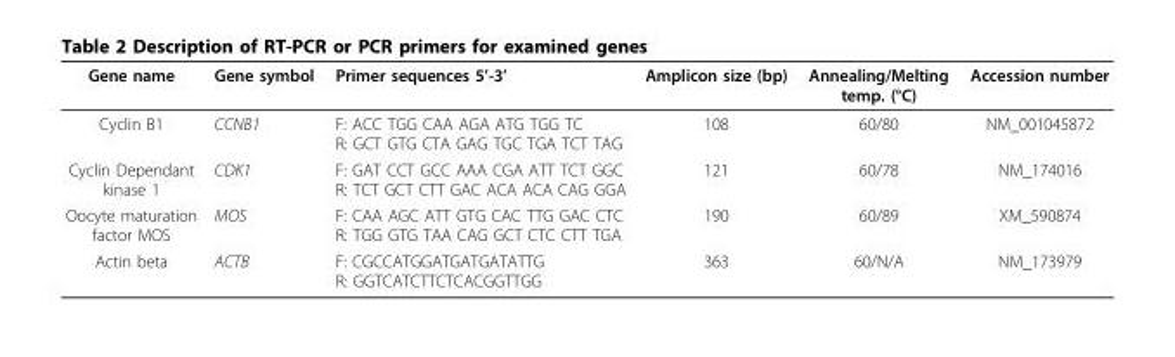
<table><thead><tr><td>Gene name</td><td>Gene symbol</td><td>Primer sequences 5’-3’</td><td>Amplicon size (bp)</td><td>Annealing/Melting temp. (°C)</td><td>Accession number</td></tr></thead><tbody><tr><td>Cyclin B1</td><td>CCNB1</td><td>F: ACC TGG CAA AGA ATG TGG TC R: GCT GTG CTA GAG TGC TGA TCT TAG</td><td>108</td><td>60/80</td><td>NM_001045872</td></tr><tr><td>Cyclin Dependant kinase 1</td><td>CDK1</td><td>F: GAT CCT GCC AAA CGA ATT TCT GGC R: TCT GCT CTT GAC ACA ACA CAG GGA</td><td>121</td><td>60/78</td><td>NM_174016</td></tr><tr><td>Oocyte maturation factor MOS</td><td>MOS</td><td>F: CAA AGC ATT GTG CAC TTG GAC CTC R: TGG GTG TAA CAG GCT CTC CTT TGA</td><td>190</td><td>60/89</td><td>XM_590874</td></tr><tr><td>Actin beta</td><td>ACTB</td><td>F: CGCCATGGATGATGATATTG R: GGTCATCTTCTCACGGTTGG</td><td>363</td><td>60/N/A</td><td>NM_173979</td></tr></tbody></table>